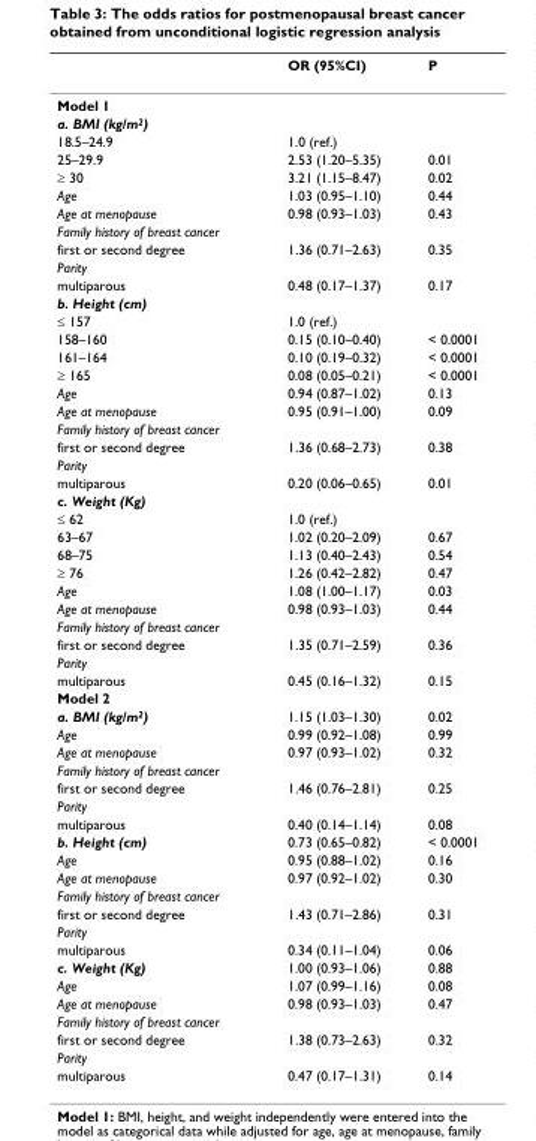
<table><thead><tr><td></td><td>OR (95%CI)</td><td>P</td></tr></thead><tbody><tr><td colspan="3">Model 1</td></tr><tr><td colspan="3">a. BMI (kg/m<sup>2</sup>)</td></tr><tr><td>18.5–24.9</td><td>1.0 (ref.)</td><td></td></tr><tr><td>25–29.9</td><td>2.53 (1.20–5.35)</td><td>0.01</td></tr><tr><td>≥ 30</td><td>3.21 (1.15–8.47)</td><td>0.02</td></tr><tr><td>Age</td><td>1.03 (0.95–1.10)</td><td>0.44</td></tr><tr><td>Age at menopause</td><td>0.98 (0.93–1.03)</td><td>0.43</td></tr><tr><td colspan="3">Family history of breast cancer</td></tr><tr><td>first or second degree</td><td>1.36 (0.71–2.63)</td><td>0.35</td></tr><tr><td colspan="3">Parity</td></tr><tr><td>multiparous</td><td>0.48 (0.17–1.37)</td><td>0.17</td></tr><tr><td colspan="3">b. Height (cm)</td></tr><tr><td>≤ 157</td><td>1.0 (ref.)</td><td></td></tr><tr><td>158–160</td><td>0.15 (0.10–0.40)</td><td>&lt; 0.0001</td></tr><tr><td>161–164</td><td>0.10 (0.19–0.32)</td><td>&lt; 0.0001</td></tr><tr><td>≥ 165</td><td>0.08 (0.05–0.21)</td><td>&lt; 0.0001</td></tr><tr><td>Age</td><td>0.94 (0.87–1.02)</td><td>0.13</td></tr><tr><td>Age at menopause</td><td>0.95 (0.91–1.00)</td><td>0.09</td></tr><tr><td colspan="3">Family history of breast cancer</td></tr><tr><td>first or second degree</td><td>1.36 (0.68–2.73)</td><td>0.38</td></tr><tr><td colspan="3">Parity</td></tr><tr><td>multiparous</td><td>0.20 (0.06–0.65)</td><td>0.01</td></tr><tr><td colspan="3">c. Weight (Kg)</td></tr><tr><td>≤ 62</td><td>1.0 (ref.)</td><td></td></tr><tr><td>63–67</td><td>1.02 (0.20–2.09)</td><td>0.67</td></tr><tr><td>68–75</td><td>1.13 (0.40–2.43)</td><td>0.54</td></tr><tr><td>≥ 76</td><td>1.26 (0.42–2.82)</td><td>0.47</td></tr><tr><td>Age</td><td>1.08 (1.00–1.17)</td><td>0.03</td></tr><tr><td>Age at menopause</td><td>0.98 (0.93–1.03)</td><td>0.44</td></tr><tr><td colspan="3">Family history of breast cancer</td></tr><tr><td>first or second degree</td><td>1.35 (0.71–2.59)</td><td>0.36</td></tr><tr><td colspan="3">Parity</td></tr><tr><td>multiparous</td><td>0.45 (0.16–1.32)</td><td>0.15</td></tr><tr><td colspan="3">Model 2</td></tr><tr><td>a. BMI (kg/m<sup>2</sup>)</td><td>1.15 (1.03–1.30)</td><td>0.02</td></tr><tr><td>Age</td><td>0.99 (0.92–1.08)</td><td>0.99</td></tr><tr><td>Age at menopause</td><td>0.97 (0.93–1.02)</td><td>0.32</td></tr><tr><td colspan="3">Family history of breast cancer</td></tr><tr><td>first or second degree</td><td>1.46 (0.76–2.81)</td><td>0.25</td></tr><tr><td colspan="3">Parity</td></tr><tr><td>multiparous</td><td>0.40 (0.14–1.14)</td><td>0.08</td></tr><tr><td>b. Height (cm)</td><td>0.73 (0.65–0.82)</td><td>&lt; 0.0001</td></tr><tr><td>Age</td><td>0.95 (0.88–1.02)</td><td>0.16</td></tr><tr><td>Age at menopause</td><td>0.97 (0.92–1.02)</td><td>0.30</td></tr><tr><td colspan="3">Family history of breast cancer</td></tr><tr><td>first or second degree</td><td>1.43 (0.71–2.86)</td><td>0.31</td></tr><tr><td colspan="3">Parity</td></tr><tr><td>multiparous</td><td>0.34 (0.11–1.04)</td><td>0.06</td></tr><tr><td>c. Weight (Kg)</td><td>1.00 (0.93–1.06)</td><td>0.88</td></tr><tr><td>Age</td><td>1.07 (0.99–1.16)</td><td>0.08</td></tr><tr><td>Age at menopause</td><td>0.98 (0.93–1.03)</td><td>0.47</td></tr><tr><td colspan="3">Family history of breast cancer</td></tr><tr><td>first or second degree</td><td>1.38 (0.73–2.63)</td><td>0.32</td></tr><tr><td colspan="3">Parity</td></tr><tr><td>multiparous</td><td>0.47 (0.17–1.31)</td><td>0.14</td></tr></tbody></table>